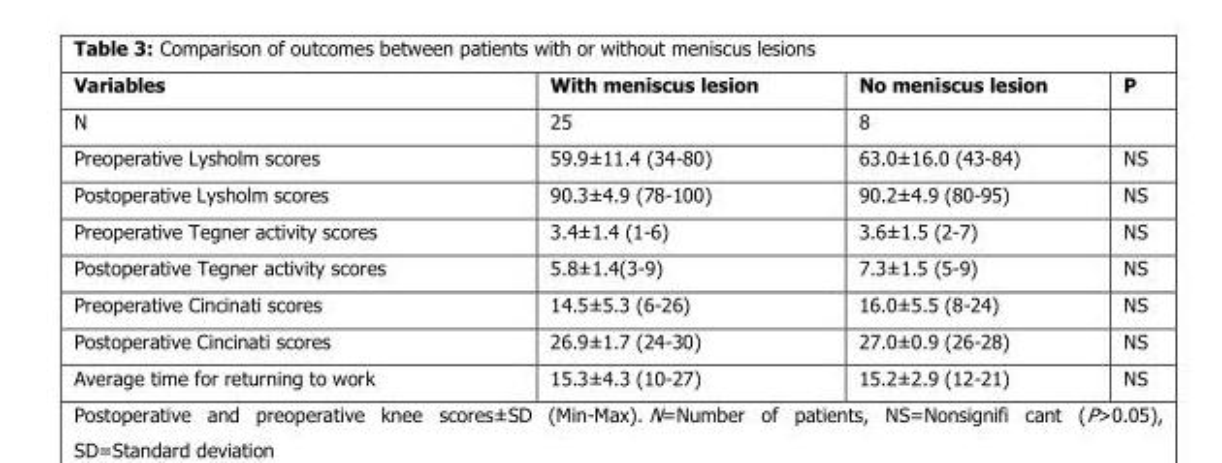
<table><thead><tr><td>Variables</td><td>With meniscus lesion</td><td>No meniscus lesion</td><td>P</td></tr></thead><tbody><tr><td>N</td><td>25</td><td>8</td><td></td></tr><tr><td>Preoperative Lysholm scores</td><td>59.9±11.4 (34-80)</td><td>63.0±16.0 (43-84)</td><td>NS</td></tr><tr><td>Postoperative Lysholm scores</td><td>90.3±4.9 (78-100)</td><td>90.2±4.9 (80-95)</td><td>NS</td></tr><tr><td>Preoperative Tegner activity scores</td><td>3.4±1.4 (1-6)</td><td>3.6±1.5 (2-7)</td><td>NS</td></tr><tr><td>Postoperative Tegner activity scores</td><td>5.8±1.4(3-9)</td><td>7.3±1.5 (5-9)</td><td>NS</td></tr><tr><td>Preoperative Cincinati scores</td><td>14.5±5.3 (6-26)</td><td>16.0±5.5 (8-24)</td><td>NS</td></tr><tr><td>Postoperative Cincinati scores</td><td>26.9±1.7 (24-30)</td><td>27.0±0.9 (26-28)</td><td>NS</td></tr><tr><td>Average time for returning to work</td><td>15.3±4.3 (10-27)</td><td>15.2±2.9 (12-21)</td><td>NS</td></tr></tbody></table>